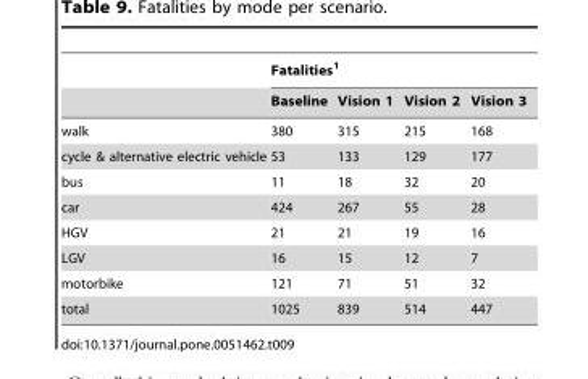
<table><thead><tr><td rowspan="2"></td><td colspan="4">Fatalities<sup>1</sup></td></tr><tr><td>Baseline</td><td>Vision 1</td><td>Vision 2</td><td>Vision 3</td></tr></thead><tbody><tr><td>walk</td><td>380</td><td>315</td><td>215</td><td>168</td></tr><tr><td>cycle &amp; alternative electric vehicle</td><td>53</td><td>133</td><td>129</td><td>177</td></tr><tr><td>bus</td><td>11</td><td>18</td><td>32</td><td>20</td></tr><tr><td>car</td><td>424</td><td>267</td><td>55</td><td>28</td></tr><tr><td>HGV</td><td>21</td><td>21</td><td>19</td><td>16</td></tr><tr><td>LGV</td><td>16</td><td>15</td><td>12</td><td>7</td></tr><tr><td>motorbike</td><td>121</td><td>71</td><td>51</td><td>32</td></tr><tr><td>total</td><td>1025</td><td>839</td><td>514</td><td>447</td></tr></tbody></table>